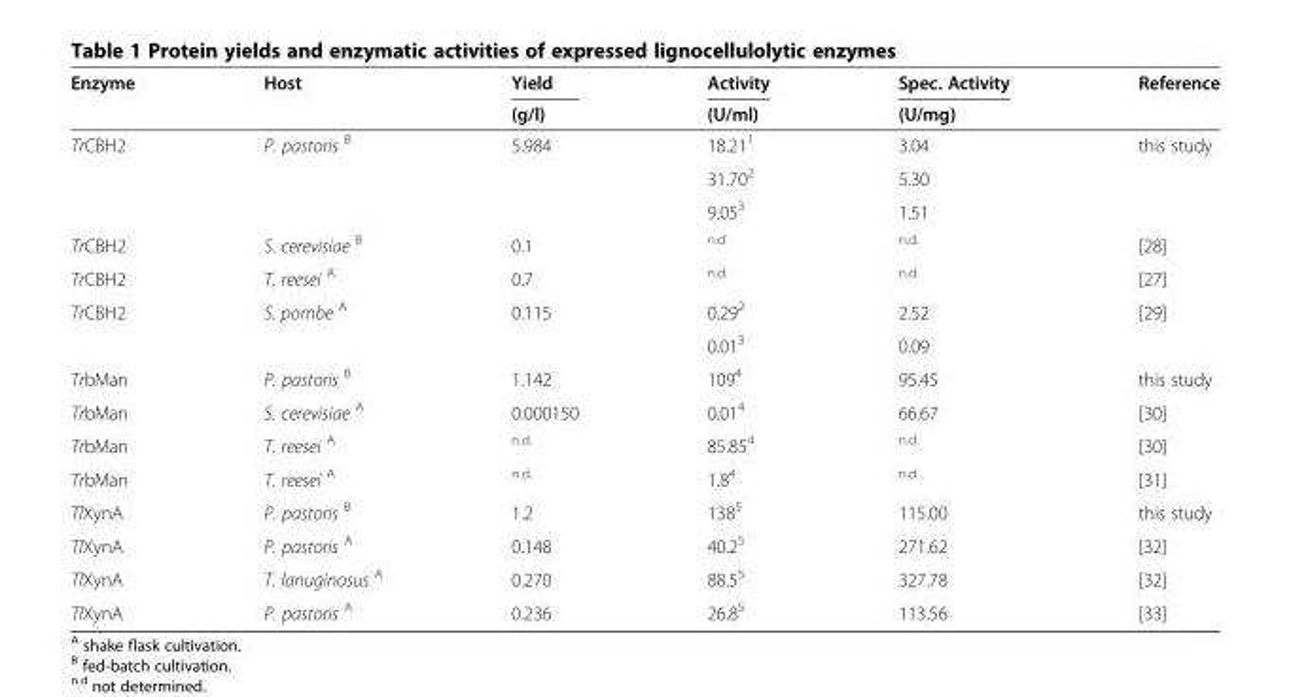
<table><thead><tr><td rowspan="2">Enzyme</td><td rowspan="2">Host</td><td rowspan="2">Yield (g/l)</td><td rowspan="2">Activity (U/ml)</td><td rowspan="2">Spec. Activity (U/mg)</td><td rowspan="2">Reference</td></tr><tr></tr></thead><tbody><tr><td rowspan="3">TrCBH2</td><td>P. pastoris <sup>B</sup></td><td>5.984</td><td>18.21<sup>1</sup></td><td>3.04</td><td>this study</td></tr><tr><td></td><td></td><td>31.70<sup>2</sup></td><td>5.30</td><td></td></tr><tr><td></td><td></td><td>9.05<sup>3</sup></td><td>1.51</td><td></td></tr><tr><td>TrCBH2</td><td>S. cerevisiae <sup>B</sup></td><td>0.1</td><td><sup>n.d.</sup></td><td><sup>n.d.</sup></td><td>[28]</td></tr><tr><td>TrCBH2</td><td>T. reesei <sup>A</sup></td><td>0.7</td><td><sup>n.d.</sup></td><td><sup>n.d.</sup></td><td>[27]</td></tr><tr><td rowspan="2">TrCBH2</td><td>S. pombe <sup>A</sup></td><td>0.115</td><td>0.29<sup>2</sup></td><td>2.52</td><td>[29]</td></tr><tr><td></td><td></td><td>0.01<sup>3</sup></td><td>0.09</td><td></td></tr><tr><td>TrbMan</td><td>P. pastoris <sup>B</sup></td><td>1.142</td><td>109<sup>4</sup></td><td>95.45</td><td>this study</td></tr><tr><td>TrbMan</td><td>S. cerevisiae <sup>A</sup></td><td>0.000150</td><td>0.01<sup>4</sup></td><td>66.67</td><td>[30]</td></tr><tr><td>TrbMan</td><td>T. reesei <sup>A</sup></td><td><sup>n.d.</sup></td><td>85.85<sup>4</sup></td><td><sup>n.d.</sup></td><td>[30]</td></tr><tr><td>TrbMan</td><td>T. reesei <sup>A</sup></td><td><sup>n.d.</sup></td><td>1.8<sup>4</sup></td><td><sup>n.d.</sup></td><td>[31]</td></tr><tr><td>TlXynA</td><td>P. pastoris <sup>B</sup></td><td>1.2</td><td>138<sup>5</sup></td><td>115.00</td><td>this study</td></tr><tr><td>TlXynA</td><td>P. pastoris <sup>A</sup></td><td>0.148</td><td>40.2<sup>5</sup></td><td>271.62</td><td>[32]</td></tr><tr><td>TlXynA</td><td>T. lanuginosus <sup>A</sup></td><td>0.270</td><td>88.5<sup>5</sup></td><td>327.78</td><td>[32]</td></tr><tr><td>TlXynA</td><td>P. pastoris <sup>A</sup></td><td>0.236</td><td>26.8<sup>5</sup></td><td>113.56</td><td>[33]</td></tr></tbody></table>